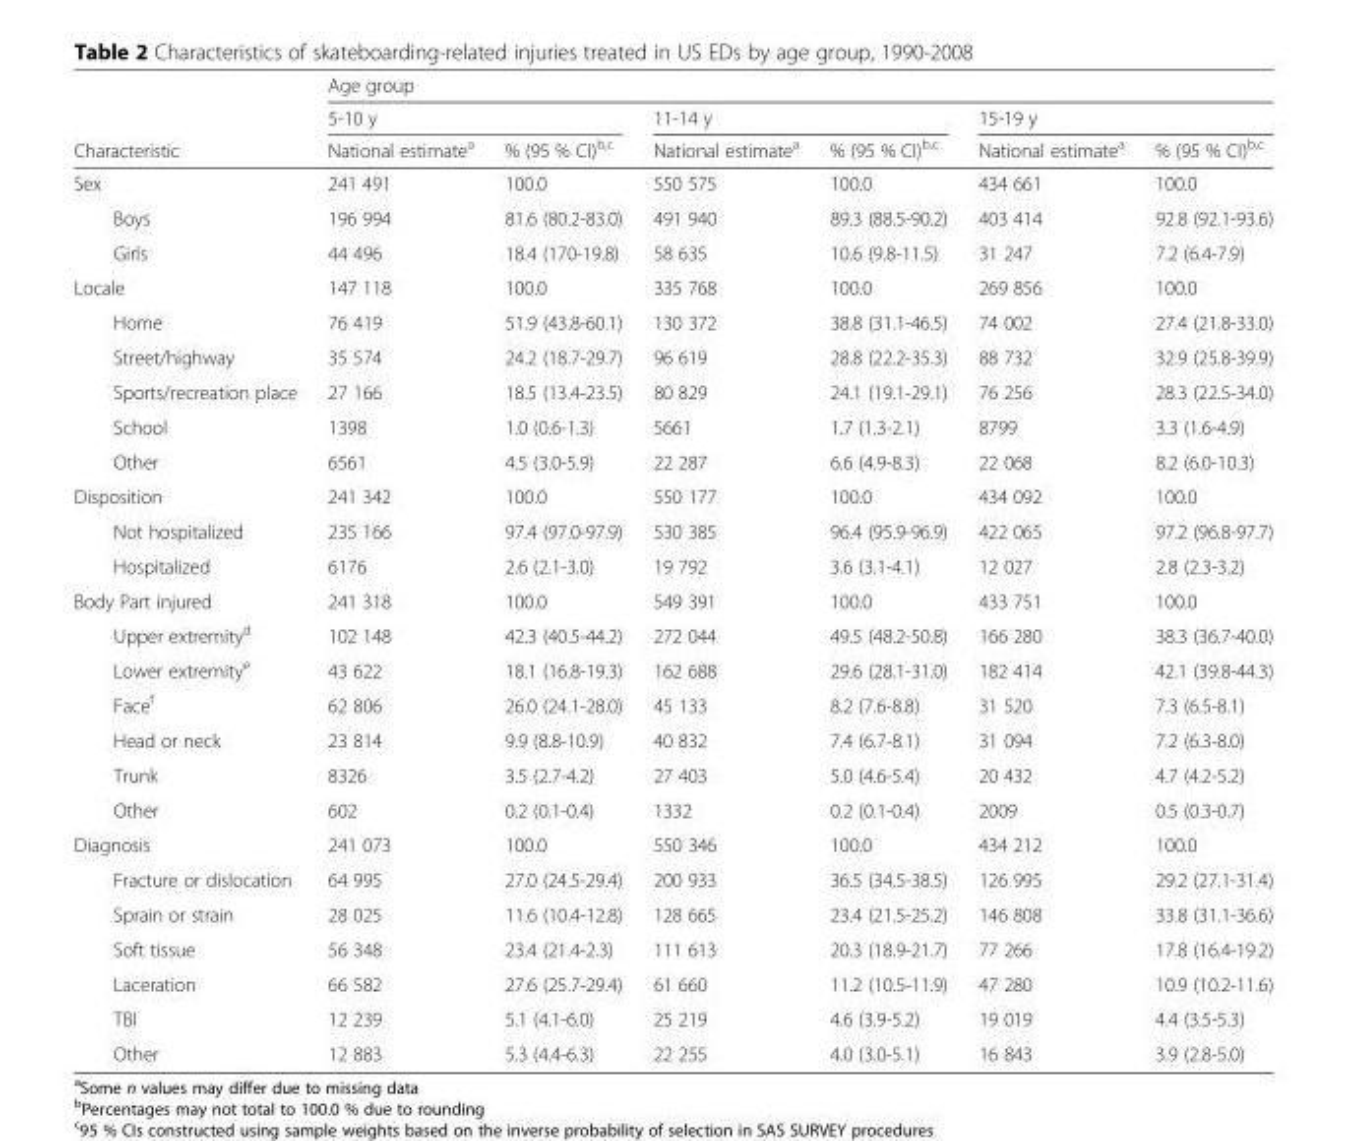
<table><thead><tr><td rowspan="3">Characteristic</td><td colspan="6">Age group</td></tr><tr><td colspan="2">5-10 y</td><td colspan="2">11-14 y</td><td colspan="2">15-19 y</td></tr><tr><td>National estimate<sup>a</sup></td><td>% (95 % CI)<sup>b,c</sup></td><td>National estimate<sup>a</sup></td><td>% (95 % CI)<sup>b,c</sup></td><td>National estimate<sup>a</sup></td><td>% (95 % CI)<sup>b,c</sup></td></tr></thead><tbody><tr><td>Sex</td><td>241 491</td><td>100.0</td><td>550 575</td><td>100.0</td><td>434 661</td><td>100.0</td></tr><tr><td>Boys</td><td>196 994</td><td>81.6 (80.2-83.0)</td><td>491 940</td><td>89.3 (88.5-90.2)</td><td>403 414</td><td>92.8 (92.1-93.6)</td></tr><tr><td>Girls</td><td>44 496</td><td>18.4 (170-19.8)</td><td>58 635</td><td>10.6 (9.8-11.5)</td><td>31 247</td><td>7.2 (6.4-7.9)</td></tr><tr><td>Locale</td><td>147 118</td><td>100.0</td><td>335 768</td><td>100.0</td><td>269 856</td><td>100.0</td></tr><tr><td>Home</td><td>76 419</td><td>51.9 (43.8-60.1)</td><td>130 372</td><td>38.8 (31.1-46.5)</td><td>74 002</td><td>27.4 (21.8-33.0)</td></tr><tr><td>Street/highway</td><td>35 574</td><td>24.2 (18.7-29.7)</td><td>96 619</td><td>28.8 (22.2-35.3)</td><td>88 732</td><td>32.9 (25.8-39.9)</td></tr><tr><td>Sports/recreation place</td><td>27 166</td><td>18.5 (13.4-23.5)</td><td>80 829</td><td>24.1 (19.1-29.1)</td><td>76 256</td><td>28.3 (22.5-34.0)</td></tr><tr><td>School</td><td>1398</td><td>1.0 (0.6-1.3)</td><td>5661</td><td>1.7 (1.3-2.1)</td><td>8799</td><td>3.3 (1.6-4.9)</td></tr><tr><td>Other</td><td>6561</td><td>4.5 (3.0-5.9)</td><td>22 287</td><td>6.6 (4.9-8.3)</td><td>22 068</td><td>8.2 (6.0-10.3)</td></tr><tr><td>Disposition</td><td>241 342</td><td>100.0</td><td>550 177</td><td>100.0</td><td>434 092</td><td>100.0</td></tr><tr><td>Not hospitalized</td><td>235 166</td><td>97.4 (97.0-97.9)</td><td>530 385</td><td>96.4 (95.9-96.9)</td><td>422 065</td><td>97.2 (96.8-97.7)</td></tr><tr><td>Hospitalized</td><td>6176</td><td>2.6 (2.1-3.0)</td><td>19 792</td><td>3.6 (3.1-4.1)</td><td>12 027</td><td>2.8 (2.3-3.2)</td></tr><tr><td>Body Part injured</td><td>241 318</td><td>100.0</td><td>549 391</td><td>100.0</td><td>433 751</td><td>100.0</td></tr><tr><td>Upper extremity<sup>d</sup></td><td>102 148</td><td>42.3 (40.5-44.2)</td><td>272 044</td><td>49.5 (48.2-50.8)</td><td>166 280</td><td>38.3 (36.7-40.0)</td></tr><tr><td>Lower extremity<sup>e</sup></td><td>43 622</td><td>18.1 (16.8-19.3)</td><td>162 688</td><td>29.6 (28.1-31.0)</td><td>182 414</td><td>42.1 (39.8-44.3)</td></tr><tr><td>Face<sup>f</sup></td><td>62 806</td><td>26.0 (24.1-28.0)</td><td>45 133</td><td>8.2 (7.6-8.8)</td><td>31 520</td><td>7.3 (6.5-8.1)</td></tr><tr><td>Head or neck</td><td>23 814</td><td>9.9 (8.8-10.9)</td><td>40 832</td><td>7.4 (6.7-8.1)</td><td>31 094</td><td>7.2 (6.3-8.0)</td></tr><tr><td>Trunk</td><td>8326</td><td>3.5 (2.7-4.2)</td><td>27 403</td><td>5.0 (4.6-5.4)</td><td>20 432</td><td>4.7 (4.2-5.2)</td></tr><tr><td>Other</td><td>602</td><td>0.2 (0.1-0.4)</td><td>1332</td><td>0.2 (0.1-0.4)</td><td>2009</td><td>0.5 (0.3-0.7)</td></tr><tr><td>Diagnosis</td><td>241 073</td><td>100.0</td><td>550 346</td><td>100.0</td><td>434 212</td><td>100.0</td></tr><tr><td>Fracture or dislocation</td><td>64 995</td><td>27.0 (24.5-29.4)</td><td>200 933</td><td>36.5 (34.5-38.5)</td><td>126 995</td><td>29.2 (27.1-31.4)</td></tr><tr><td>Sprain or strain</td><td>28 025</td><td>11.6 (10.4-12.8)</td><td>128 665</td><td>23.4 (21.5-25.2)</td><td>146 808</td><td>33.8 (31.1-36.6)</td></tr><tr><td>Soft tissue</td><td>56 348</td><td>23.4 (21.4-2.3)</td><td>111 613</td><td>20.3 (18.9-21.7)</td><td>77 266</td><td>17.8 (16.4-19.2)</td></tr><tr><td>Laceration</td><td>66 582</td><td>27.6 (25.7-29.4)</td><td>61 660</td><td>11.2 (10.5-11.9)</td><td>47 280</td><td>10.9 (10.2-11.6)</td></tr><tr><td>TBI</td><td>12 239</td><td>5.1 (4.1-6.0)</td><td>25 219</td><td>4.6 (3.9-5.2)</td><td>19 019</td><td>4.4 (3.5-5.3)</td></tr><tr><td>Other</td><td>12 883</td><td>5.3 (4.4-6.3)</td><td>22 255</td><td>4.0 (3.0-5.1)</td><td>16 843</td><td>3.9 (2.8-5.0)</td></tr></tbody></table>